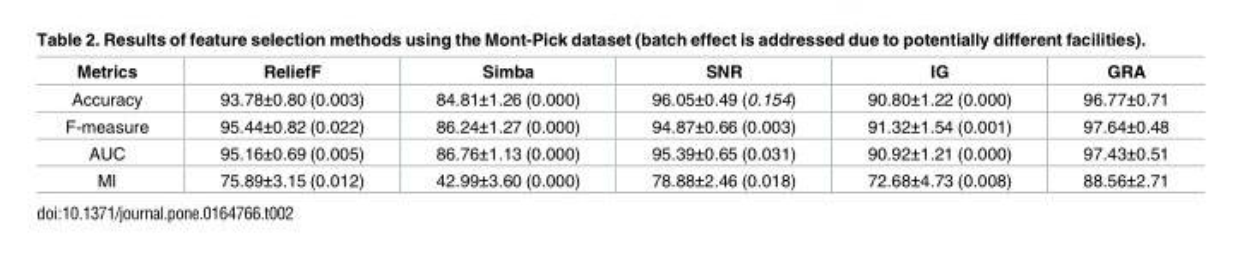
<table><thead><tr><td>Metrics</td><td>ReliefF</td><td>Simba</td><td>SNR</td><td>IG</td><td>GRA</td></tr></thead><tbody><tr><td>Accuracy</td><td>93.78±0.80 (0.003)</td><td>84.81±1.26 (0.000)</td><td>96.05±0.49 (0.154)</td><td>90.80±1.22 (0.000)</td><td>96.77±0.71</td></tr><tr><td>F-measure</td><td>95.44±0.82 (0.022)</td><td>86.24±1.27 (0.000)</td><td>94.87±0.66 (0.003)</td><td>91.32±1.54 (0.001)</td><td>97.64±0.48</td></tr><tr><td>AUC</td><td>95.16±0.69 (0.005)</td><td>86.76±1.13 (0.000)</td><td>95.39±0.65 (0.031)</td><td>90.92±1.21 (0.000)</td><td>97.43±0.51</td></tr><tr><td>MI</td><td>75.89±3.15 (0.012)</td><td>42.99±3.60 (0.000)</td><td>78.88±2.46 (0.018)</td><td>72.68±4.73 (0.008)</td><td>88.56±2.71</td></tr></tbody></table>